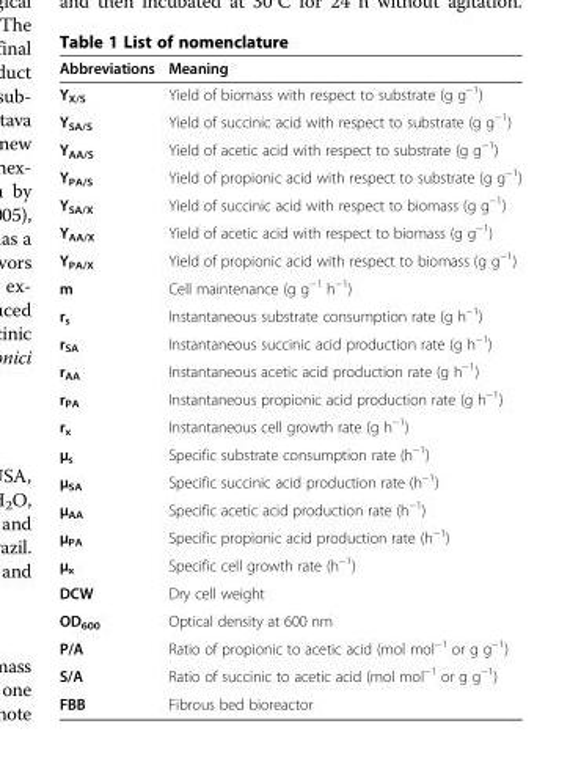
<table><thead><tr><td>Abbreviations</td><td>Meaning</td></tr></thead><tbody><tr><td>Y<sub>X/S</sub></td><td>Yield of biomass with respect to substrate (g g<sup>−1</sup>)</td></tr><tr><td>Y<sub>SA/S</sub></td><td>Yield of succinic acid with respect to substrate (g g<sup>−1</sup>)</td></tr><tr><td>Y<sub>AA/S</sub></td><td>Yield of acetic acid with respect to substrate (g g<sup>−1</sup>)</td></tr><tr><td>Y<sub>PA/S</sub></td><td>Yield of propionic acid with respect to substrate (g g<sup>−1</sup>)</td></tr><tr><td>Y<sub>SA/X</sub></td><td>Yield of succinic acid with respect to biomass (g g<sup>−1</sup>)</td></tr><tr><td>Y<sub>AA/X</sub></td><td>Yield of acetic acid with respect to biomass (g g<sup>−1</sup>)</td></tr><tr><td>Y<sub>PA/X</sub></td><td>Yield of propionic acid with respect to biomass (g g<sup>−1</sup>)</td></tr><tr><td>m</td><td>Cell maintenance (g g<sup>−1</sup> h<sup>−1</sup>)</td></tr><tr><td>r<sub>s</sub></td><td>Instantaneous substrate consumption rate (g h<sup>−1</sup>)</td></tr><tr><td>r<sub>SA</sub></td><td>Instantaneous succinic acid production rate (g h<sup>−1</sup>)</td></tr><tr><td>r<sub>AA</sub></td><td>Instantaneous acetic acid production rate (g h<sup>−1</sup>)</td></tr><tr><td>r<sub>PA</sub></td><td>Instantaneous propionic acid production rate (g h<sup>−1</sup>)</td></tr><tr><td>r<sub>x</sub></td><td>Instantaneous cell growth rate (g h<sup>−1</sup>)</td></tr><tr><td>μ<sub>s</sub></td><td>Specific substrate consumption rate (h<sup>−1</sup>)</td></tr><tr><td>μ<sub>SA</sub></td><td>Specific succinic acid production rate (h<sup>−1</sup>)</td></tr><tr><td>μ<sub>AA</sub></td><td>Specific acetic acid production rate (h<sup>−1</sup>)</td></tr><tr><td>μ<sub>PA</sub></td><td>Specific propionic acid production rate (h<sup>−1</sup>)</td></tr><tr><td>μ<sub>x</sub></td><td>Specific cell growth rate (h<sup>−1</sup>)</td></tr><tr><td>DCW</td><td>Dry cell weight</td></tr><tr><td>OD<sub>600</sub></td><td>Optical density at 600 nm</td></tr><tr><td>P/A</td><td>Ratio of propionic to acetic acid (mol mol<sup>−1</sup> or g g<sup>−1</sup>)</td></tr><tr><td>S/A</td><td>Ratio of succinic to acetic acid (mol mol<sup>−1</sup> or g g<sup>−1</sup>)</td></tr><tr><td>FBB</td><td>Fibrous bed bioreactor</td></tr></tbody></table>